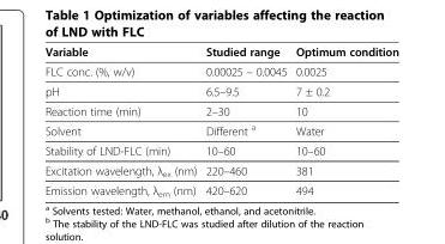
<table><thead><tr><td>Variable</td><td>Studied range</td><td>Optimum condition</td></tr></thead><tbody><tr><td>FLC conc. (%, w/v)</td><td>0.00025 – 0.0045</td><td>0.0025</td></tr><tr><td>pH</td><td>6.5–9.5</td><td>7 ± 0.2</td></tr><tr><td>Reaction time (min)</td><td>2–30</td><td>10</td></tr><tr><td>Solvent</td><td>Different <sup>a</sup></td><td>Water</td></tr><tr><td>Stability of LND-FLC (min)</td><td>10–60</td><td>10–60</td></tr><tr><td>Excitation wavelength, λ<sub>ex</sub> (nm)</td><td>220–460</td><td>381</td></tr><tr><td>Emission wavelength, λ<sub>em</sub> (nm)</td><td>420–620</td><td>494</td></tr></tbody></table>